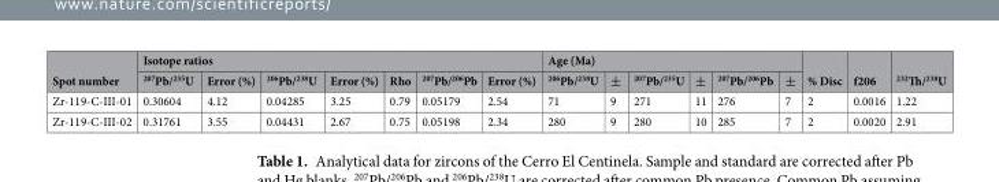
<table><thead><tr><td rowspan="2">Spot number</td><td colspan="7">Isotope ratios</td><td colspan="6">Age (Ma)</td><td rowspan="2">% Disc</td><td rowspan="2">f206</td><td rowspan="2"><sup>232</sup>Th/<sup>238</sup>U</td></tr><tr><td><sup>207</sup>Pb/<sup>235</sup>U</td><td>Error (%)</td><td><sup>206</sup>Pb/<sup>238</sup>U</td><td>Error (%)</td><td>Rho</td><td><sup>207</sup>Pb/<sup>206</sup>Pb</td><td>Error (%)</td><td><sup>206</sup>Pb/<sup>238</sup>U</td><td>±</td><td><sup>207</sup>Pb/<sup>235</sup>U</td><td>±</td><td><sup>207</sup>Pb/<sup>206</sup>Pb</td><td>±</td></tr></thead><tbody><tr><td>Zr-119-C-III-01</td><td>0.30604</td><td>4.12</td><td>0.04285</td><td>3.25</td><td>0.79</td><td>0.05179</td><td>2.54</td><td>71</td><td>9</td><td>271</td><td>11</td><td>276</td><td>7</td><td>2</td><td>0.0016</td><td>1.22</td></tr><tr><td>Zr-119-C-III-02</td><td>0.31761</td><td>3.55</td><td>0.04431</td><td>2.67</td><td>0.75</td><td>0.05198</td><td>2.34</td><td>280</td><td>9</td><td>280</td><td>10</td><td>285</td><td>7</td><td>2</td><td>0.0020</td><td>2.91</td></tr></tbody></table>